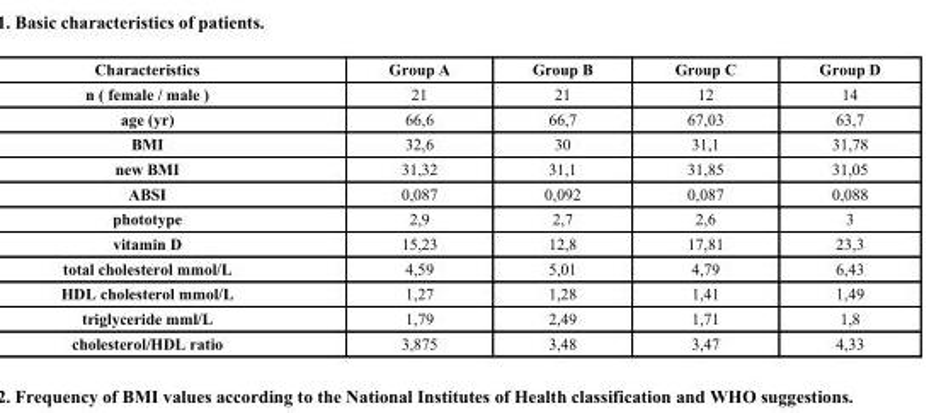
<table><thead><tr><td>Characteristics</td><td>Group A</td><td>Group B</td><td>Group C</td><td>Group D</td></tr></thead><tbody><tr><td>n ( female / male )</td><td>21</td><td>21</td><td>12</td><td>14</td></tr><tr><td>age (yr)</td><td>66,6</td><td>66,7</td><td>67,03</td><td>63,7</td></tr><tr><td>BMI</td><td>32,6</td><td>30</td><td>31,1</td><td>31,78</td></tr><tr><td>new BMI</td><td>31,32</td><td>31,1</td><td>31,85</td><td>31,05</td></tr><tr><td>ABSI</td><td>0,087</td><td>0,092</td><td>0,087</td><td>0,088</td></tr><tr><td>phototype</td><td>2,9</td><td>2,7</td><td>2,6</td><td>3</td></tr><tr><td>vitamin D</td><td>15,23</td><td>12,8</td><td>17,81</td><td>23,3</td></tr><tr><td>total cholesterol mmol/L</td><td>4,59</td><td>5,01</td><td>4,79</td><td>6,43</td></tr><tr><td>HDL cholesterol mmol/L</td><td>1,27</td><td>1,28</td><td>1,41</td><td>1,49</td></tr><tr><td>triglyceride mml/L</td><td>1,79</td><td>2,49</td><td>1,71</td><td>1,8</td></tr><tr><td>cholesterol/HDL ratio</td><td>3,875</td><td>3,48</td><td>3,47</td><td>4,33</td></tr></tbody></table>